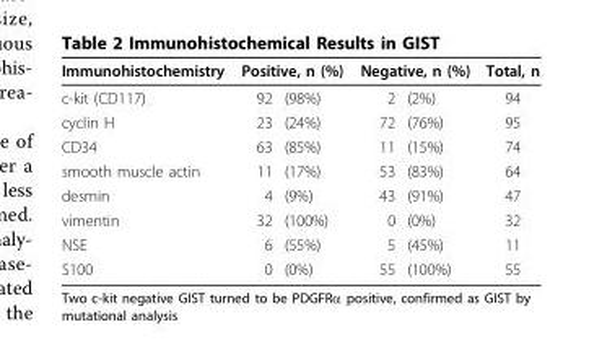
<table><thead><tr><td rowspan="2">Immunohistochemistry c-kit (CD117)</td><td colspan="2">Positive, n (%)</td><td colspan="2">Negative, n (%)</td><td rowspan="2">Total, n 94</td></tr><tr><td>92</td><td>(98%)</td><td>2</td><td>(2%)</td></tr></thead><tbody><tr><td>cyclin H</td><td>23</td><td>(24%)</td><td>72</td><td>(76%)</td><td>95</td></tr><tr><td>CD34</td><td>63</td><td>(85%)</td><td>11</td><td>(15%)</td><td>74</td></tr><tr><td>smooth muscle actin</td><td>11</td><td>(17%)</td><td>53</td><td>(83%)</td><td>64</td></tr><tr><td>desmin</td><td>4</td><td>(9%)</td><td>43</td><td>(91%)</td><td>47</td></tr><tr><td>vimentin</td><td>32</td><td>(100%)</td><td>0</td><td>(0%)</td><td>32</td></tr><tr><td>NSE</td><td>6</td><td>(55%)</td><td>5</td><td>(45%)</td><td>11</td></tr><tr><td>S100</td><td>0</td><td>(0%)</td><td>55</td><td>(100%)</td><td>55</td></tr></tbody></table>